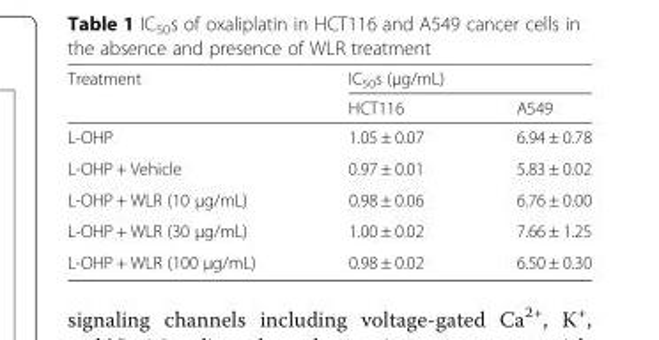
<table><thead><tr><td rowspan="2">Treatment</td><td colspan="2">IC<sub>50</sub>s (μg/mL)</td></tr><tr><td>HCT116</td><td>A549</td></tr></thead><tbody><tr><td>L-OHP</td><td>1.05 ± 0.07</td><td>6.94 ± 0.78</td></tr><tr><td>L-OHP + Vehicle</td><td>0.97 ± 0.01</td><td>5.83 ± 0.02</td></tr><tr><td>L-OHP + WLR (10 μg/mL)</td><td>0.98 ± 0.06</td><td>6.76 ± 0.00</td></tr><tr><td>L-OHP + WLR (30 μg/mL)</td><td>1.00 ± 0.02</td><td>7.66 ± 1.25</td></tr><tr><td>L-OHP + WLR (100 μg/mL)</td><td>0.98 ± 0.02</td><td>6.50 ± 0.30</td></tr></tbody></table>